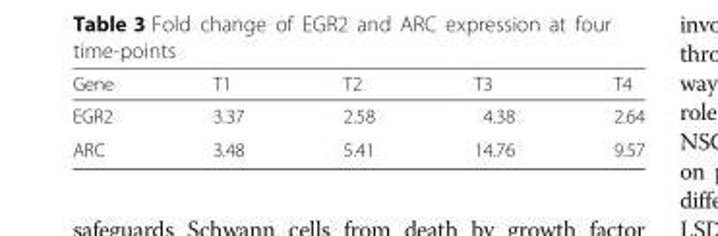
<table><thead><tr><td>Gene</td><td>T1</td><td>T2</td><td>T3</td><td>T4</td></tr></thead><tbody><tr><td>EGR2</td><td>3.37</td><td>2.58</td><td>4.38</td><td>2.64</td></tr><tr><td>ARC</td><td>3.48</td><td>5.41</td><td>14.76</td><td>9.57</td></tr></tbody></table>